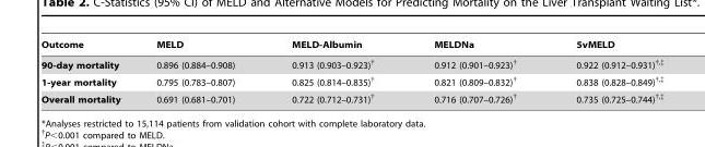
<table><thead><tr><td>Outcome</td><td>MELD</td><td>MELD-Albumin</td><td>MELDNa</td><td>5vMELD</td></tr></thead><tbody><tr><td>90-day mortality</td><td>0.896 (0.884–0.908)</td><td>0.913 (0.903–0.923)†</td><td>0.912 (0.901–0.923)†</td><td>0.922 (0.912–0.931)†<sup>,</sup>‡</td></tr><tr><td>1-year mortality</td><td>0.795 (0.783–0.807)</td><td>0.825 (0.814–0.835)†</td><td>0.821 (0.809–0.832)†</td><td>0.838 (0.828–0.849)†<sup>,</sup>‡</td></tr><tr><td>Overall mortality</td><td>0.691 (0.681–0.701)</td><td>0.722 (0.712–0.731)†</td><td>0.716 (0.707–0.726)†</td><td>0.735 (0.725–0.744)†<sup>,</sup>‡</td></tr></tbody></table>